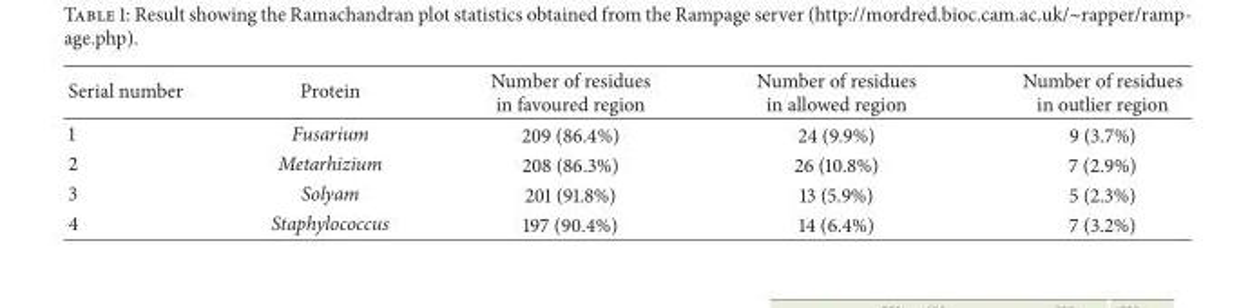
<table><thead><tr><td>Serial number</td><td>Protein</td><td>Number of residues in favoured region</td><td>Number of residues in allowed region</td><td>Number of residues in outlier region</td></tr></thead><tbody><tr><td>1</td><td>Fusarium</td><td>209 (86.4%)</td><td>24 (9.9%)</td><td>9 (3.7%)</td></tr><tr><td>2</td><td>Metarhizium</td><td>208 (86.3%)</td><td>26 (10.8%)</td><td>7 (2.9%)</td></tr><tr><td>3</td><td>Solyam</td><td>201 (91.8%)</td><td>13 (5.9%)</td><td>5 (2.3%)</td></tr><tr><td>4</td><td>Staphylococcus</td><td>197 (90.4%)</td><td>14 (6.4%)</td><td>7 (3.2%)</td></tr></tbody></table>